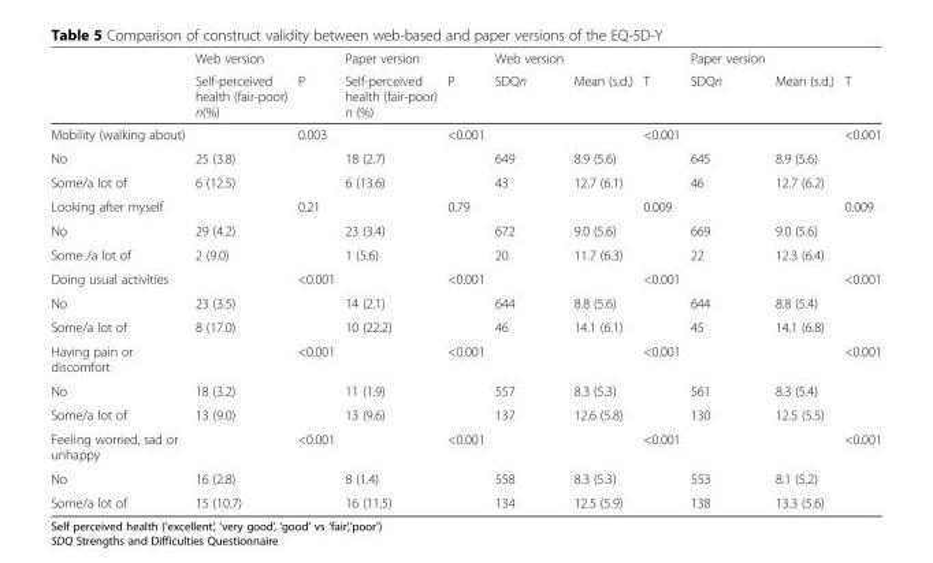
<table><thead><tr><td rowspan="2"></td><td rowspan="2">Web version Self-perceived health (fair-poor) n(%)</td><td rowspan="2">P</td><td rowspan="2">Paper version Self-perceived health (fair-poor) n (%)</td><td rowspan="2">P</td><td rowspan="2">Web version SDQn</td><td rowspan="2">Mean (s.d.)</td><td rowspan="2">T</td><td rowspan="2">Paper version SDQn</td><td rowspan="2">Mean (s.d.)</td><td rowspan="2">T</td></tr><tr></tr></thead><tbody><tr><td>Mobility (walking about)</td><td></td><td>0.003</td><td></td><td>&lt;0.001</td><td></td><td></td><td>&lt;0.001</td><td></td><td></td><td>&lt;0.001</td></tr><tr><td>No</td><td>25 (3.8)</td><td></td><td>18 (2.7)</td><td></td><td>649</td><td>8.9 (5.6)</td><td></td><td>645</td><td>8.9 (5.6)</td><td></td></tr><tr><td>Some/a lot of</td><td>6 (12.5)</td><td></td><td>6 (13.6)</td><td></td><td>43</td><td>12.7 (6.1)</td><td></td><td>46</td><td>12.7 (6.2)</td><td></td></tr><tr><td>Looking after myself</td><td></td><td>0.21</td><td></td><td>0.79</td><td></td><td></td><td>0.009</td><td></td><td></td><td>0.009</td></tr><tr><td>No</td><td>29 (4.2)</td><td></td><td>23 (3.4)</td><td></td><td>672</td><td>9.0 (5.6)</td><td></td><td>669</td><td>9.0 (5.6)</td><td></td></tr><tr><td>Some /a lot of</td><td>2 (9.0)</td><td></td><td>1 (5.6)</td><td></td><td>20</td><td>11.7 (6.3)</td><td></td><td>22</td><td>12.3 (6.4)</td><td></td></tr><tr><td>Doing usual activities</td><td></td><td>&lt;0.001</td><td></td><td>&lt;0.001</td><td></td><td></td><td>&lt;0.001</td><td></td><td></td><td>&lt;0.001</td></tr><tr><td>No</td><td>23 (3.5)</td><td></td><td>14 (2.1)</td><td></td><td>644</td><td>8.8 (5.6)</td><td></td><td>644</td><td>8.8 (5.4)</td><td></td></tr><tr><td>Some/a lot of</td><td>8 (17.0)</td><td></td><td>10 (22.2)</td><td></td><td>46</td><td>14.1 (6.1)</td><td></td><td>45</td><td>14.1 (6.8)</td><td></td></tr><tr><td>Having pain or discomfort</td><td></td><td>&lt;0.001</td><td></td><td>&lt;0.001</td><td></td><td></td><td>&lt;0.001</td><td></td><td></td><td>&lt;0.001</td></tr><tr><td>No</td><td>18 (3.2)</td><td></td><td>11 (1.9)</td><td></td><td>557</td><td>8.3 (5.3)</td><td></td><td>561</td><td>8.3 (5.4)</td><td></td></tr><tr><td>Some/a lot of</td><td>13 (9.0)</td><td></td><td>13 (9.6)</td><td></td><td>137</td><td>12.6 (5.8)</td><td></td><td>130</td><td>12.5 (5.5)</td><td></td></tr><tr><td>Feeling worried, sad or unhappy</td><td></td><td>&lt;0.001</td><td></td><td>&lt;0.001</td><td></td><td></td><td>&lt;0.001</td><td></td><td></td><td>&lt;0.001</td></tr><tr><td>No</td><td>16 (2.8)</td><td></td><td>8 (1.4)</td><td></td><td>558</td><td>8.3 (5.3)</td><td></td><td>553</td><td>8.1 (5.2)</td><td></td></tr><tr><td>Some/a lot of</td><td>15 (10.7)</td><td></td><td>16 (11.5)</td><td></td><td>134</td><td>12.5 (5.9)</td><td></td><td>138</td><td>13.3 (5.6)</td><td></td></tr></tbody></table>